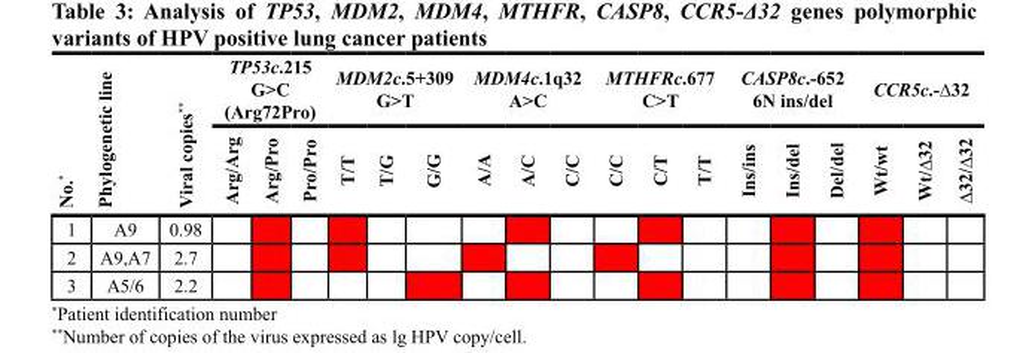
<table><thead><tr><td rowspan="2">No.*</td><td rowspan="2">Phylogenetic line</td><td rowspan="2">Viral copies**</td><td colspan="3">TP53c.215 G&gt;C (Arg72Pro)</td><td colspan="3">MDM2c.5+309 G&gt;T</td><td colspan="3">MDM4c.1q32 A&gt;C</td><td colspan="3">MTHFRc.677 C&gt;T</td><td colspan="3">CASP8c.-652 6N ins/del</td><td colspan="3">CCR5c.-∆32</td></tr><tr><td>Arg/Arg</td><td>Arg/Pro</td><td>Pro/Pro</td><td>T/T</td><td>T/G</td><td>G/G</td><td>A/A</td><td>A/C</td><td>C/C</td><td>C/C</td><td>C/T</td><td>T/T</td><td>Ins/ins</td><td>Ins/del</td><td>Del/del</td><td>Wt/wt</td><td>Wt/∆32</td><td>∆32/∆32</td></tr></thead><tbody><tr><td>1</td><td>A9</td><td>0.98</td><td></td><td></td><td></td><td></td><td></td><td></td><td></td><td></td><td></td><td></td><td></td><td></td><td></td><td></td><td></td><td></td><td></td><td></td></tr><tr><td>2</td><td>A9,A7</td><td>2.7</td><td></td><td></td><td></td><td></td><td></td><td></td><td></td><td></td><td></td><td></td><td></td><td></td><td></td><td></td><td></td><td></td><td></td><td></td></tr><tr><td>3</td><td>A5/6</td><td>2.2</td><td></td><td></td><td></td><td></td><td></td><td></td><td></td><td></td><td></td><td></td><td></td><td></td><td></td><td></td><td></td><td></td><td></td><td></td></tr></tbody></table>